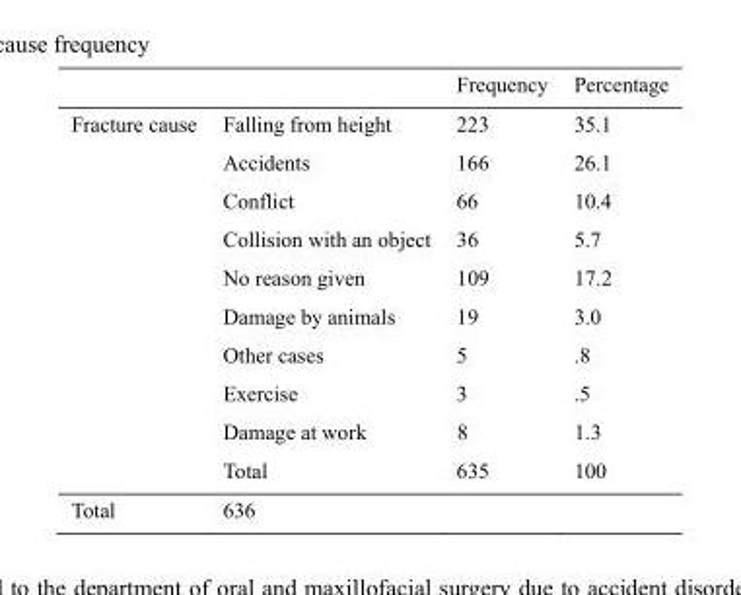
<table><thead><tr><td></td><td></td><td>Frequency</td><td>Percentage</td></tr></thead><tbody><tr><td rowspan="10">Fracture cause</td><td>Falling from height</td><td>223</td><td>35.1</td></tr><tr><td>Accidents</td><td>166</td><td>26.1</td></tr><tr><td>Conflict</td><td>66</td><td>10.4</td></tr><tr><td>Collision with an object</td><td>36</td><td>5.7</td></tr><tr><td>No reason given</td><td>109</td><td>17.2</td></tr><tr><td>Damage by animals</td><td>19</td><td>3.0</td></tr><tr><td>Other cases</td><td>5</td><td>.8</td></tr><tr><td>Exercise</td><td>3</td><td>.5</td></tr><tr><td>Damage at work</td><td>8</td><td>1.3</td></tr><tr><td>Total</td><td>635</td><td>100</td></tr><tr><td>Total</td><td>636</td><td></td><td></td></tr></tbody></table>